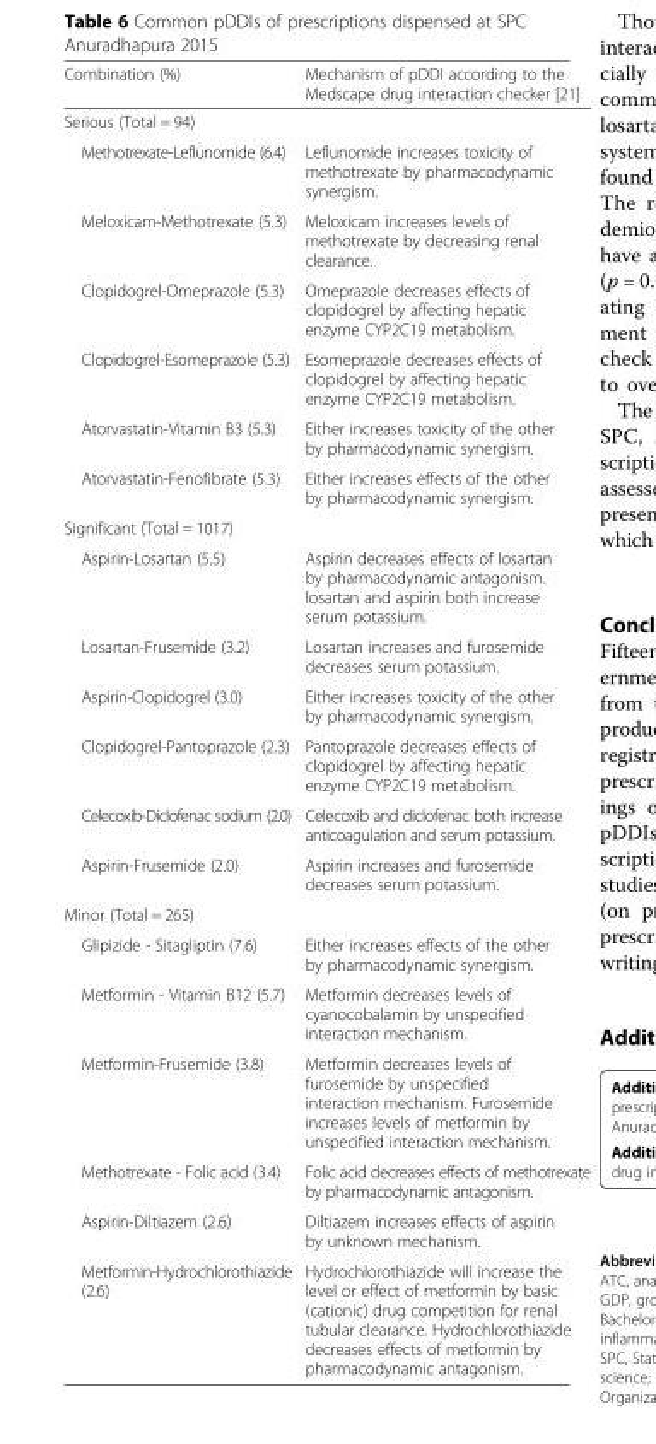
<table><thead><tr><td>Combination (%)</td><td>Mechanism of pDDI according to the Medscape drug interaction checker [21]</td></tr></thead><tbody><tr><td colspan="2">Serious (Total = 94)</td></tr><tr><td>Methotrexate-Leflunomide (6.4)</td><td>Leflunomide increases toxicity of methotrexate by pharmacodynamic synergism.</td></tr><tr><td>Meloxicam-Methotrexate (5.3)</td><td>Meloxicam increases levels of methotrexate by decreasing renal clearance.</td></tr><tr><td>Clopidogrel-Omeprazole (5.3)</td><td>Omeprazole decreases effects of clopidogrel by affecting hepatic enzyme CYP2C19 metabolism.</td></tr><tr><td>Clopidogrel-Esomeprazole (5.3)</td><td>Esomeprazole decreases effects of clopidogrel by affecting hepatic enzyme CYP2C19 metabolism.</td></tr><tr><td>Atorvastatin-Vitamin B3 (5.3)</td><td>Either increases toxicity of the other by pharmacodynamic synergism.</td></tr><tr><td>Atorvastatin-Fenofibrate (5.3)</td><td>Either increases effects of the other by pharmacodynamic synergism.</td></tr><tr><td colspan="2">Significant (Total = 1017)</td></tr><tr><td>Aspirin-Losartan (5.5)</td><td>Aspirin decreases effects of losartan by pharmacodynamic antagonism. losartan and aspirin both increase serum potassium.</td></tr><tr><td>Losartan-Frusemide (3.2)</td><td>Losartan increases and furosemide decreases serum potassium.</td></tr><tr><td>Aspirin-Clopidogrel (3.0)</td><td>Either increases toxicity of the other by pharmacodynamic synergism.</td></tr><tr><td>Clopidogrel-Pantoprazole (2.3)</td><td>Pantoprazole decreases effects of clopidogrel by affecting hepatic enzyme CYP2C19 metabolism.</td></tr><tr><td>Celecoxib-Diclofenac sodium (2.0)</td><td>Celecoxib and diclofenac both increase anticoagulation and serum potassium.</td></tr><tr><td>Aspirin-Frusemide (2.0)</td><td>Aspirin increases and furosemide decreases serum potassium.</td></tr><tr><td colspan="2">Minor (Total = 265)</td></tr><tr><td>Glipizide - Sitagliptin (7.6)</td><td>Either increases effects of the other by pharmacodynamic synergism.</td></tr><tr><td>Metformin - Vitamin B12 (5.7)</td><td>Metformin decreases levels of cyanocobalamin by unspecified interaction mechanism.</td></tr><tr><td>Metformin-Frusemide (3.8)</td><td>Metformin decreases levels of furosemide by unspecified interaction mechanism. Furosemide increases levels of metformin by unspecified interaction mechanism.</td></tr><tr><td>Methotrexate - Folic acid (3.4)</td><td>Folic acid decreases effects of methotrexate by pharmacodynamic antagonism.</td></tr><tr><td>Aspirin-Diltiazem (2.6)</td><td>Diltiazem increases effects of aspirin by unknown mechanism.</td></tr><tr><td>Metformin-Hydrochlorothiazide (2.6)</td><td>Hydrochlorothiazide will increase the level or effect of metformin by basic (cationic) drug competition for renal tubular clearance. Hydrochlorothiazide decreases effects of metformin by pharmacodynamic antagonism.</td></tr></tbody></table>